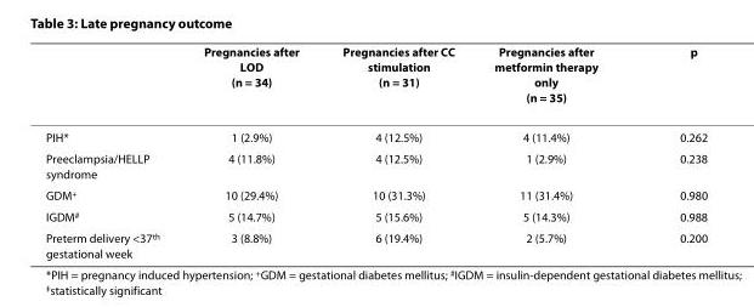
<table><thead><tr><td></td><td>Pregnancies after LOD (n = 34)</td><td>Pregnancies after CC stimulation (n = 31)</td><td>Pregnancies after metformin therapy only (n = 35)</td><td>p</td></tr></thead><tbody><tr><td>PIH*</td><td>1 (2.9%)</td><td>4 (12.5%)</td><td>4 (11.4%)</td><td>0.262</td></tr><tr><td>Preeclampsia/HELLP syndrome</td><td>4 (11.8%)</td><td>4 (12.5%)</td><td>1 (2.9%)</td><td>0.238</td></tr><tr><td>GDM<sup>+</sup></td><td>10 (29.4%)</td><td>10 (31.3%)</td><td>11 (31.4%)</td><td>0.980</td></tr><tr><td>IGDM<sup>#</sup></td><td>5 (14.7%)</td><td>5 (15.6%)</td><td>5 (14.3%)</td><td>0.988</td></tr><tr><td>Preterm delivery &lt;37<sup>th</sup> gestational week</td><td>3 (8.8%)</td><td>6 (19.4%)</td><td>2 (5.7%)</td><td>0.200</td></tr></tbody></table>